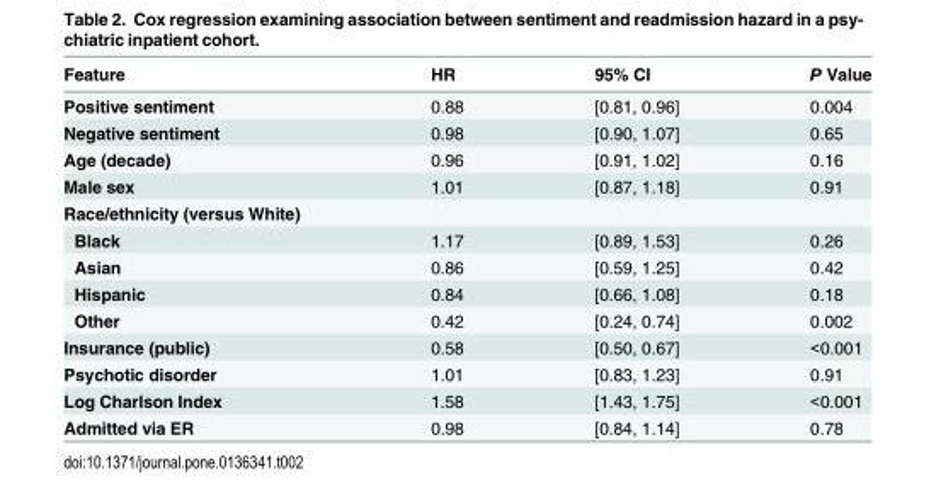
<table><thead><tr><td>Feature</td><td>HR</td><td>95% CI</td><td>P Value</td></tr></thead><tbody><tr><td>Positive sentiment</td><td>0.88</td><td>[0.81, 0.96]</td><td>0.004</td></tr><tr><td>Negative sentiment</td><td>0.98</td><td>[0.90, 1.07]</td><td>0.65</td></tr><tr><td>Age (decade)</td><td>0.96</td><td>[0.91, 1.02]</td><td>0.16</td></tr><tr><td>Male sex</td><td>1.01</td><td>[0.87, 1.18]</td><td>0.91</td></tr><tr><td colspan="4">Race/ethnicity (versus White)</td></tr><tr><td>Black</td><td>1.17</td><td>[0.89, 1.53]</td><td>0.26</td></tr><tr><td>Asian</td><td>0.86</td><td>[0.59, 1.25]</td><td>0.42</td></tr><tr><td>Hispanic</td><td>0.84</td><td>[0.66, 1.08]</td><td>0.18</td></tr><tr><td>Other</td><td>0.42</td><td>[0.24, 0.74]</td><td>0.002</td></tr><tr><td>Insurance (public)</td><td>0.58</td><td>[0.50, 0.67]</td><td>&lt;0.001</td></tr><tr><td>Psychotic disorder</td><td>1.01</td><td>[0.83, 1.23]</td><td>0.91</td></tr><tr><td>Log Charlson Index</td><td>1.58</td><td>[1.43, 1.75]</td><td>&lt;0.001</td></tr><tr><td>Admitted via ER</td><td>0.98</td><td>[0.84, 1.14]</td><td>0.78</td></tr></tbody></table>